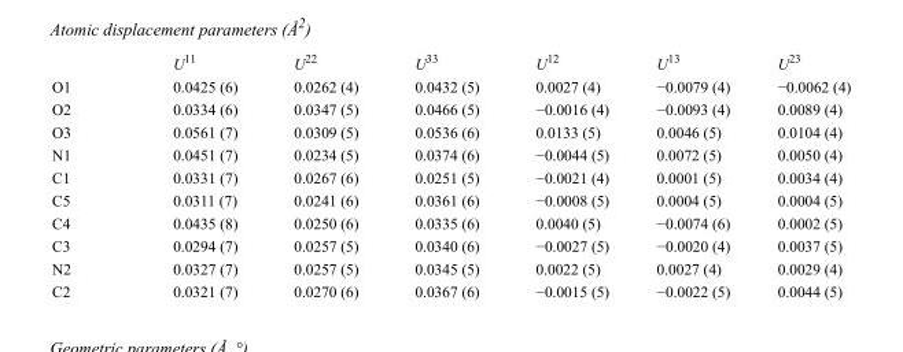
<table><thead><tr><td></td><td>U<sup>11</sup></td><td>U<sup>22</sup></td><td>U<sup>33</sup></td><td>U<sup>12</sup></td><td>U<sup>13</sup></td><td>U<sup>23</sup></td></tr></thead><tbody><tr><td>O1</td><td>0.0425 (6)</td><td>0.0262 (4)</td><td>0.0432 (5)</td><td>0.0027 (4)</td><td>−0.0079 (4)</td><td>−0.0062 (4)</td></tr><tr><td>O2</td><td>0.0334 (6)</td><td>0.0347 (5)</td><td>0.0466 (5)</td><td>−0.0016 (4)</td><td>−0.0093 (4)</td><td>0.0089 (4)</td></tr><tr><td>O3</td><td>0.0561 (7)</td><td>0.0309 (5)</td><td>0.0536 (6)</td><td>0.0133 (5)</td><td>0.0046 (5)</td><td>0.0104 (4)</td></tr><tr><td>N1</td><td>0.0451 (7)</td><td>0.0234 (5)</td><td>0.0374 (6)</td><td>−0.0044 (5)</td><td>0.0072 (5)</td><td>0.0050 (4)</td></tr><tr><td>C1</td><td>0.0331 (7)</td><td>0.0267 (6)</td><td>0.0251 (5)</td><td>−0.0021 (4)</td><td>0.0001 (5)</td><td>0.0034 (4)</td></tr><tr><td>C5</td><td>0.0311 (7)</td><td>0.0241 (6)</td><td>0.0361 (6)</td><td>−0.0008 (5)</td><td>0.0004 (5)</td><td>0.0004 (5)</td></tr><tr><td>C4</td><td>0.0435 (8)</td><td>0.0250 (6)</td><td>0.0335 (6)</td><td>0.0040 (5)</td><td>−0.0074 (6)</td><td>0.0002 (5)</td></tr><tr><td>C3</td><td>0.0294 (7)</td><td>0.0257 (5)</td><td>0.0340 (6)</td><td>−0.0027 (5)</td><td>−0.0020 (4)</td><td>0.0037 (5)</td></tr><tr><td>N2</td><td>0.0327 (7)</td><td>0.0257 (5)</td><td>0.0345 (5)</td><td>0.0022 (5)</td><td>0.0027 (4)</td><td>0.0029 (4)</td></tr><tr><td>C2</td><td>0.0321 (7)</td><td>0.0270 (6)</td><td>0.0367 (6)</td><td>−0.0015 (5)</td><td>−0.0022 (5)</td><td>0.0044 (5)</td></tr></tbody></table>